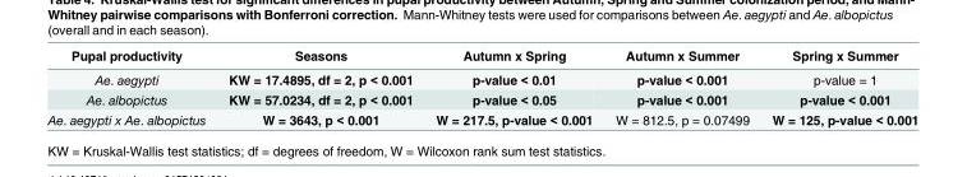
<table><thead><tr><td>Pupal productivity</td><td>Seasons</td><td>Autumn x Spring</td><td>Autumn x Summer</td><td>Spring x Summer</td></tr></thead><tbody><tr><td>Ae. aegypti</td><td>KW = 17.4895, df = 2, p &lt; 0.001</td><td>p-value &lt; 0.01</td><td>p-value &lt; 0.001</td><td>p-value = 1</td></tr><tr><td>Ae. albopictus</td><td>KW = 57.0234, df = 2, p &lt; 0.001</td><td>p-value &lt; 0.05</td><td>p-value &lt; 0.001</td><td>p-value &lt; 0.001</td></tr><tr><td>Ae. aegypti x Ae. albopictus</td><td>W = 3643, p &lt; 0.001</td><td>W = 217.5, p-value &lt; 0.001</td><td>W = 812.5, p = 0.07499</td><td>W = 125, p-value &lt; 0.001</td></tr></tbody></table>